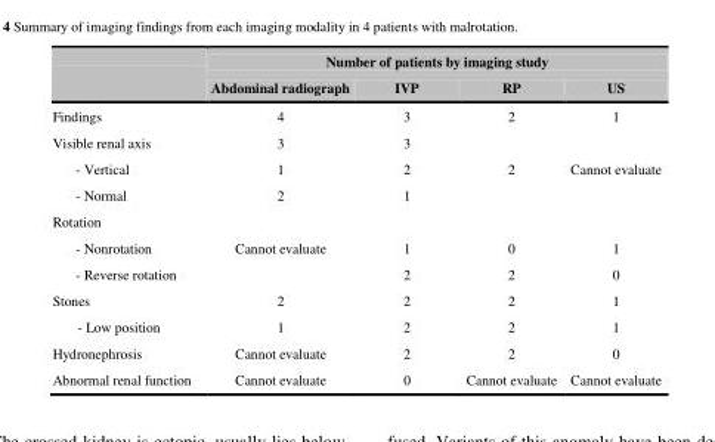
<table><thead><tr><td rowspan="2"></td><td colspan="4">Number of patients by imaging study</td></tr><tr><td>Abdominal radiograph</td><td>IVP</td><td>RP</td><td>US</td></tr></thead><tbody><tr><td>Findings</td><td>4</td><td>3</td><td>2</td><td>1</td></tr><tr><td>Visible renal axis</td><td>3</td><td>3</td><td></td><td></td></tr><tr><td>- Vertical</td><td>1</td><td>2</td><td>2</td><td>Cannot evaluate</td></tr><tr><td>- Normal</td><td>2</td><td>1</td><td></td><td></td></tr><tr><td colspan="5">Rotation</td></tr><tr><td>- Nonrotation</td><td>Cannot evaluate</td><td>1</td><td>0</td><td>1</td></tr><tr><td>- Reverse rotation</td><td></td><td>2</td><td>2</td><td>0</td></tr><tr><td>Stones</td><td>2</td><td>2</td><td>2</td><td>1</td></tr><tr><td>- Low position</td><td>1</td><td>2</td><td>2</td><td>1</td></tr><tr><td>Hydronephrosis</td><td>Cannot evaluate</td><td>2</td><td>2</td><td>0</td></tr><tr><td>Abnormal renal function</td><td>Cannot evaluate</td><td>0</td><td>Cannot evaluate</td><td>Cannot evaluate</td></tr></tbody></table>